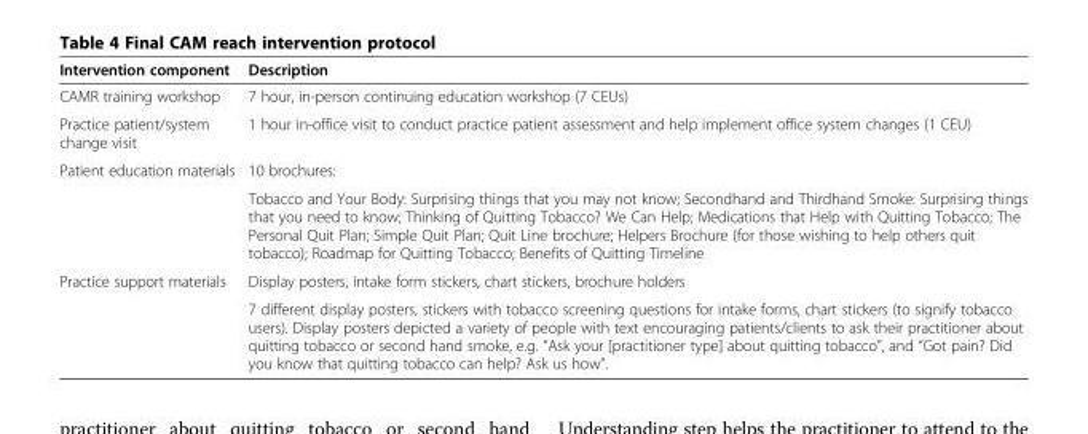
<table><thead><tr><td>Intervention component</td><td>Description</td></tr></thead><tbody><tr><td>CAMR training workshop</td><td>7 hour, in-person continuing education workshop (7 CEUs)</td></tr><tr><td>Practice patient/system change visit</td><td>1 hour in-office visit to conduct practice patient assessment and help implement office system changes (1 CEU)</td></tr><tr><td rowspan="2">Patient education materials</td><td>10 brochures:</td></tr><tr><td>Tobacco and Your Body: Surprising things that you may not know; Secondhand and Thirdhand Smoke: Surprising things that you need to know; Thinking of Quitting Tobacco? We Can Help; Medications that Help with Quitting Tobacco; The Personal Quit Plan; Simple Quit Plan; Quit Line brochure; Helpers Brochure (for those wishing to help others quit tobacco); Roadmap for Quitting Tobacco; Benefits of Quitting Timeline</td></tr><tr><td rowspan="2">Practice support materials</td><td>Display posters, intake form stickers, chart stickers, brochure holders</td></tr><tr><td>7 different display posters, stickers with tobacco screening questions for intake forms, chart stickers (to signify tobacco users). Display posters depicted a variety of people with text encouraging patients/clients to ask their practitioner about quitting tobacco or second hand smoke, e.g. “Ask your [practitioner type] about quitting tobacco”, and “Got pain? Did you know that quitting tobacco can help? Ask us how”.</td></tr></tbody></table>